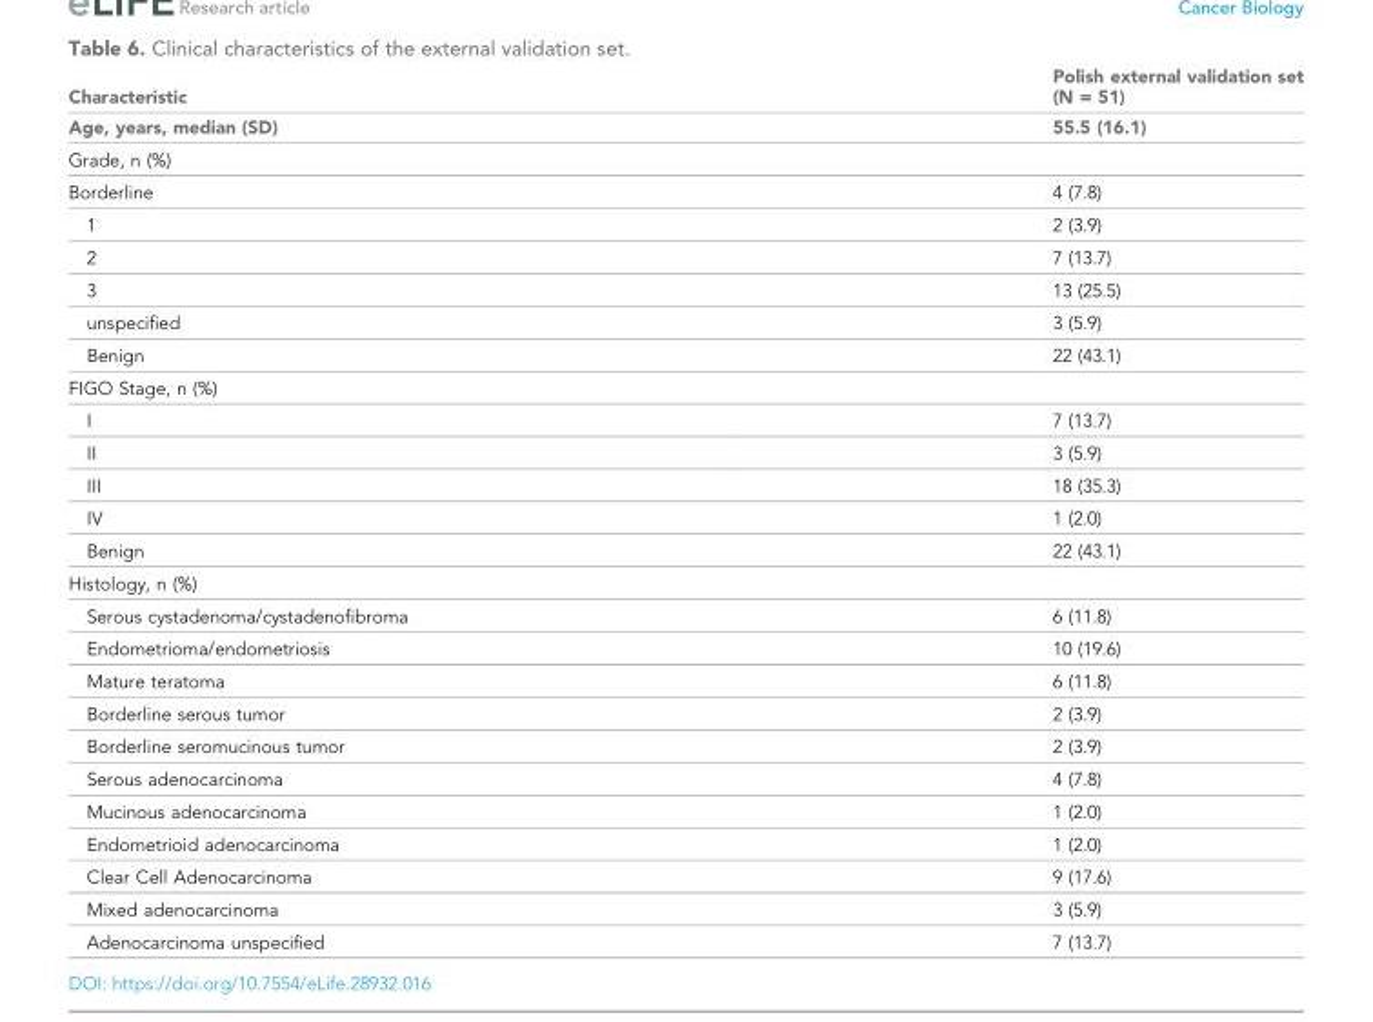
<table><thead><tr><td rowspan="2">Characteristic Age, years, median (SD)</td><td rowspan="2">Polish external validation set (N = 51) 55.5 (16.1)</td></tr><tr></tr></thead><tbody><tr><td colspan="2">Grade, n (%)</td></tr><tr><td>Borderline</td><td>4 (7.8)</td></tr><tr><td>1</td><td>2 (3.9)</td></tr><tr><td>2</td><td>7 (13.7)</td></tr><tr><td>3</td><td>13 (25.5)</td></tr><tr><td>unspecified</td><td>3 (5.9)</td></tr><tr><td>Benign</td><td>22 (43.1)</td></tr><tr><td colspan="2">FIGO Stage, n (%)</td></tr><tr><td>I</td><td>7 (13.7)</td></tr><tr><td>II</td><td>3 (5.9)</td></tr><tr><td>III</td><td>18 (35.3)</td></tr><tr><td>IV</td><td>1 (2.0)</td></tr><tr><td>Benign</td><td>22 (43.1)</td></tr><tr><td colspan="2">Histology, n (%)</td></tr><tr><td>Serous cystadenoma/cystadenofibroma</td><td>6 (11.8)</td></tr><tr><td>Endometrioma/endometriosis</td><td>10 (19.6)</td></tr><tr><td>Mature teratoma</td><td>6 (11.8)</td></tr><tr><td>Borderline serous tumor</td><td>2 (3.9)</td></tr><tr><td>Borderline seromucinous tumor</td><td>2 (3.9)</td></tr><tr><td>Serous adenocarcinoma</td><td>4 (7.8)</td></tr><tr><td>Mucinous adenocarcinoma</td><td>1 (2.0)</td></tr><tr><td>Endometrioid adenocarcinoma</td><td>1 (2.0)</td></tr><tr><td>Clear Cell Adenocarcinoma</td><td>9 (17.6)</td></tr><tr><td>Mixed adenocarcinoma</td><td>3 (5.9)</td></tr><tr><td>Adenocarcinoma unspecified</td><td>7 (13.7)</td></tr></tbody></table>